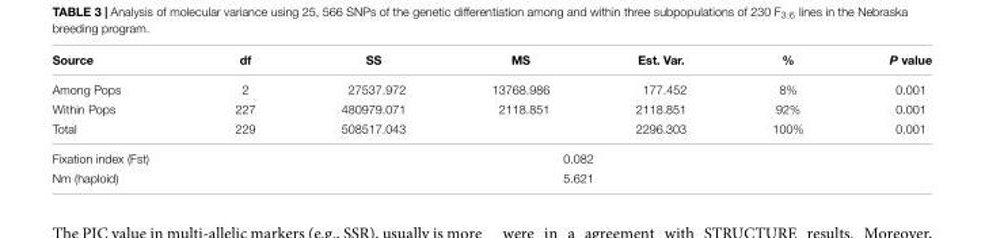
<table><thead><tr><td>Source</td><td>df</td><td>SS</td><td>MS</td><td>Est. Var.</td><td>%</td><td>P value</td></tr></thead><tbody><tr><td>Among Pops</td><td>2</td><td>27537.972</td><td>13768.986</td><td>177.452</td><td>8%</td><td>0.001</td></tr><tr><td>Within Pops</td><td>227</td><td>480979.071</td><td>2118.851</td><td>2118.851</td><td>92%</td><td>0.001</td></tr><tr><td>Total</td><td>229</td><td>508517.043</td><td></td><td>2296.303</td><td>100%</td><td>0.001</td></tr><tr><td>Fixation index (Fst)</td><td colspan="6">0.082</td></tr><tr><td>Nm (haploid)</td><td colspan="6">5.621</td></tr></tbody></table>